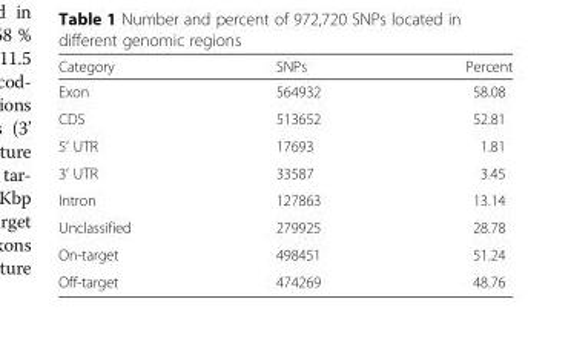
<table><thead><tr><td>Category</td><td>SNPs</td><td>Percent</td></tr></thead><tbody><tr><td>Exon</td><td>564932</td><td>58.08</td></tr><tr><td>CDS</td><td>513652</td><td>52.81</td></tr><tr><td>5’ UTR</td><td>17693</td><td>1.81</td></tr><tr><td>3’ UTR</td><td>33587</td><td>3.45</td></tr><tr><td>Intron</td><td>127863</td><td>13.14</td></tr><tr><td>Unclassified</td><td>279925</td><td>28.78</td></tr><tr><td>On-target</td><td>498451</td><td>51.24</td></tr><tr><td>Off-target</td><td>474269</td><td>48.76</td></tr></tbody></table>